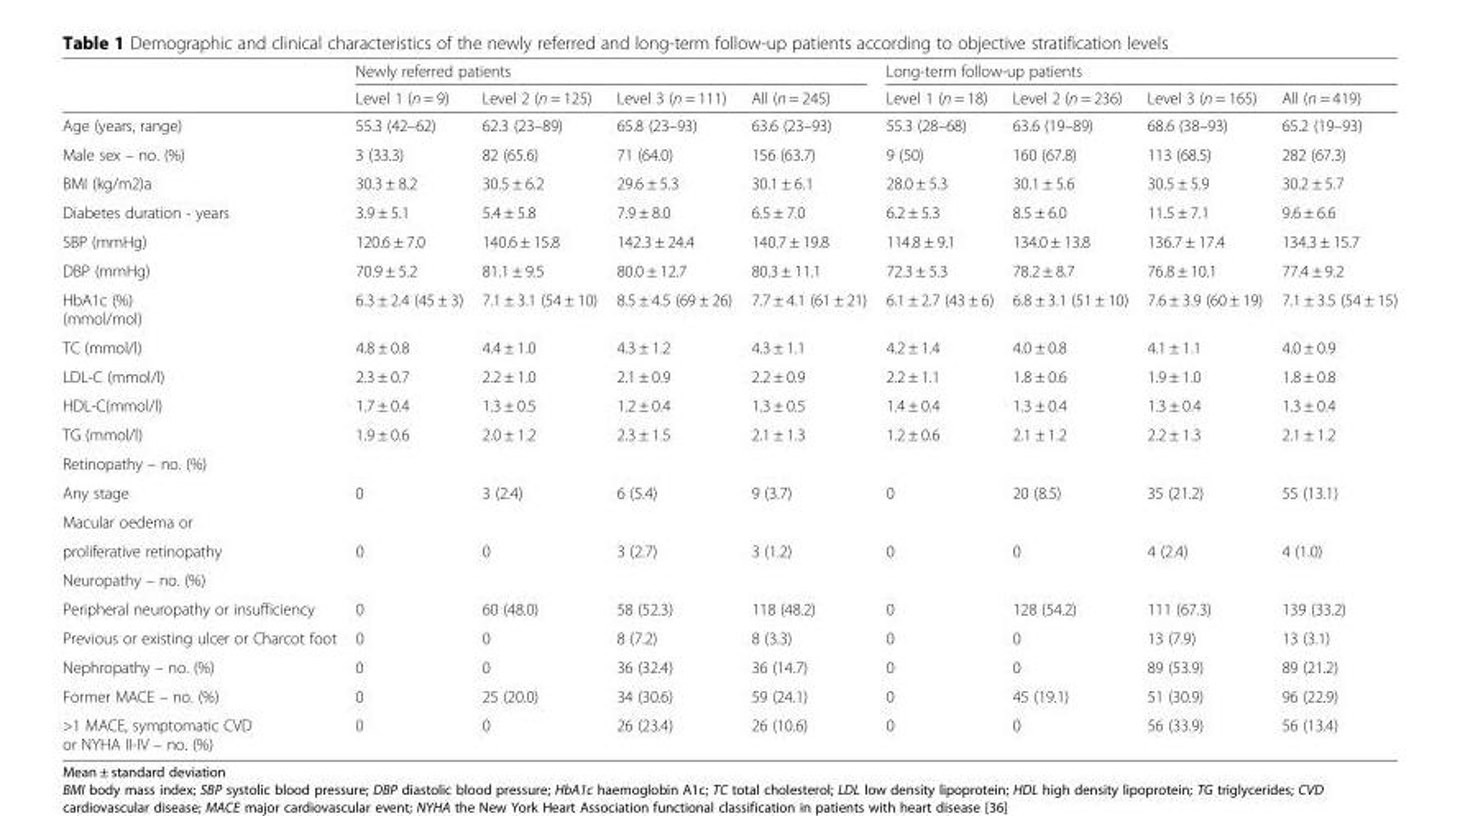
<table><thead><tr><td rowspan="2"></td><td colspan="4">Newly referred patients</td><td colspan="4">Long-term follow-up patients</td></tr><tr><td>Level 1 (n = 9)</td><td>Level 2 (n = 125)</td><td>Level 3 (n = 111)</td><td>All (n = 245)</td><td>Level 1 (n = 18)</td><td>Level 2 (n = 236)</td><td>Level 3 (n = 165)</td><td>All (n = 419)</td></tr></thead><tbody><tr><td>Age (years, range)</td><td>55.3 (42–62)</td><td>62.3 (23–89)</td><td>65.8 (23–93)</td><td>63.6 (23–93)</td><td>55.3 (28–68)</td><td>63.6 (19–89)</td><td>68.6 (38–93)</td><td>65.2 (19–93)</td></tr><tr><td>Male sex – no. (%)</td><td>3 (33.3)</td><td>82 (65.6)</td><td>71 (64.0)</td><td>156 (63.7)</td><td>9 (50)</td><td>160 (67.8)</td><td>113 (68.5)</td><td>282 (67.3)</td></tr><tr><td>BMI (kg/m2)a</td><td>30.3 ± 8.2</td><td>30.5 ± 6.2</td><td>29.6 ± 5.3</td><td>30.1 ± 6.1</td><td>28.0 ± 5.3</td><td>30.1 ± 5.6</td><td>30.5 ± 5.9</td><td>30.2 ± 5.7</td></tr><tr><td>Diabetes duration - years</td><td>3.9 ± 5.1</td><td>5.4 ± 5.8</td><td>7.9 ± 8.0</td><td>6.5 ± 7.0</td><td>6.2 ± 5.3</td><td>8.5 ± 6.0</td><td>11.5 ± 7.1</td><td>9.6 ± 6.6</td></tr><tr><td>SBP (mmHg)</td><td>120.6 ± 7.0</td><td>140.6 ± 15.8</td><td>142.3 ± 24.4</td><td>140.7 ± 19.8</td><td>114.8 ± 9.1</td><td>134.0 ± 13.8</td><td>136.7 ± 17.4</td><td>134.3 ± 15.7</td></tr><tr><td>DBP (mmHg)</td><td>70.9 ± 5.2</td><td>81.1 ± 9.5</td><td>80.0 ± 12.7</td><td>80.3 ± 11.1</td><td>72.3 ± 5.3</td><td>78.2 ± 8.7</td><td>76.8 ± 10.1</td><td>77.4 ± 9.2</td></tr><tr><td>HbA1c (%) (mmol/mol)</td><td>6.3 ± 2.4 (45 ± 3)</td><td>7.1 ± 3.1 (54 ± 10)</td><td>8.5 ± 4.5 (69 ± 26)</td><td>7.7 ± 4.1 (61 ± 21)</td><td>6.1 ± 2.7 (43 ± 6)</td><td>6.8 ± 3.1 (51 ± 10)</td><td>7.6 ± 3.9 (60 ± 19)</td><td>7.1 ± 3.5 (54 ± 15)</td></tr><tr><td>TC (mmol/l)</td><td>4.8 ± 0.8</td><td>4.4 ± 1.0</td><td>4.3 ± 1.2</td><td>4.3 ± 1.1</td><td>4.2 ± 1.4</td><td>4.0 ± 0.8</td><td>4.1 ± 1.1</td><td>4.0 ± 0.9</td></tr><tr><td>LDL-C (mmol/l)</td><td>2.3 ± 0.7</td><td>2.2 ± 1.0</td><td>2.1 ± 0.9</td><td>2.2 ± 0.9</td><td>2.2 ± 1.1</td><td>1.8 ± 0.6</td><td>1.9 ± 1.0</td><td>1.8 ± 0.8</td></tr><tr><td>HDL-C(mmol/l)</td><td>1.7 ± 0.4</td><td>1.3 ± 0.5</td><td>1.2 ± 0.4</td><td>1.3 ± 0.5</td><td>1.4 ± 0.4</td><td>1.3 ± 0.4</td><td>1.3 ± 0.4</td><td>1.3 ± 0.4</td></tr><tr><td>TG (mmol/l)</td><td>1.9 ± 0.6</td><td>2.0 ± 1.2</td><td>2.3 ± 1.5</td><td>2.1 ± 1.3</td><td>1.2 ± 0.6</td><td>2.1 ± 1.2</td><td>2.2 ± 1.3</td><td>2.1 ± 1.2</td></tr><tr><td colspan="9">Retinopathy – no. (%)</td></tr><tr><td>Any stage</td><td>0</td><td>3 (2.4)</td><td>6 (5.4)</td><td>9 (3.7)</td><td>0</td><td>20 (8.5)</td><td>35 (21.2)</td><td>55 (13.1)</td></tr><tr><td colspan="9">Macular oedema or</td></tr><tr><td>proliferative retinopathy</td><td>0</td><td>0</td><td>3 (2.7)</td><td>3 (1.2)</td><td>0</td><td>0</td><td>4 (2.4)</td><td>4 (1.0)</td></tr><tr><td colspan="9">Neuropathy – no. (%)</td></tr><tr><td>Peripheral neuropathy or insufficiency</td><td>0</td><td>60 (48.0)</td><td>58 (52.3)</td><td>118 (48.2)</td><td>0</td><td>128 (54.2)</td><td>111 (67.3)</td><td>139 (33.2)</td></tr><tr><td>Previous or existing ulcer or Charcot foot</td><td>0</td><td>0</td><td>8 (7.2)</td><td>8 (3.3)</td><td>0</td><td>0</td><td>13 (7.9)</td><td>13 (3.1)</td></tr><tr><td>Nephropathy – no. (%)</td><td>0</td><td>0</td><td>36 (32.4)</td><td>36 (14.7)</td><td>0</td><td>0</td><td>89 (53.9)</td><td>89 (21.2)</td></tr><tr><td>Former MACE – no. (%)</td><td>0</td><td>25 (20.0)</td><td>34 (30.6)</td><td>59 (24.1)</td><td>0</td><td>45 (19.1)</td><td>51 (30.9)</td><td>96 (22.9)</td></tr><tr><td>&gt;1 MACE, symptomatic CVD or NYHA II-IV – no. (%)</td><td>0</td><td>0</td><td>26 (23.4)</td><td>26 (10.6)</td><td>0</td><td>0</td><td>56 (33.9)</td><td>56 (13.4)</td></tr></tbody></table>